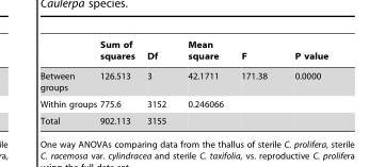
<table><thead><tr><td></td><td>Sum of squares</td><td>Df</td><td>Mean square</td><td>F</td><td>P value</td></tr></thead><tbody><tr><td>Between groups</td><td>126.513</td><td>3</td><td>42.1711</td><td>171.38</td><td>0.0000</td></tr><tr><td>Within groups</td><td>775.6</td><td>3152</td><td>0.246066</td><td></td><td></td></tr><tr><td>Total</td><td>902.113</td><td>3155</td><td></td><td></td><td></td></tr></tbody></table>